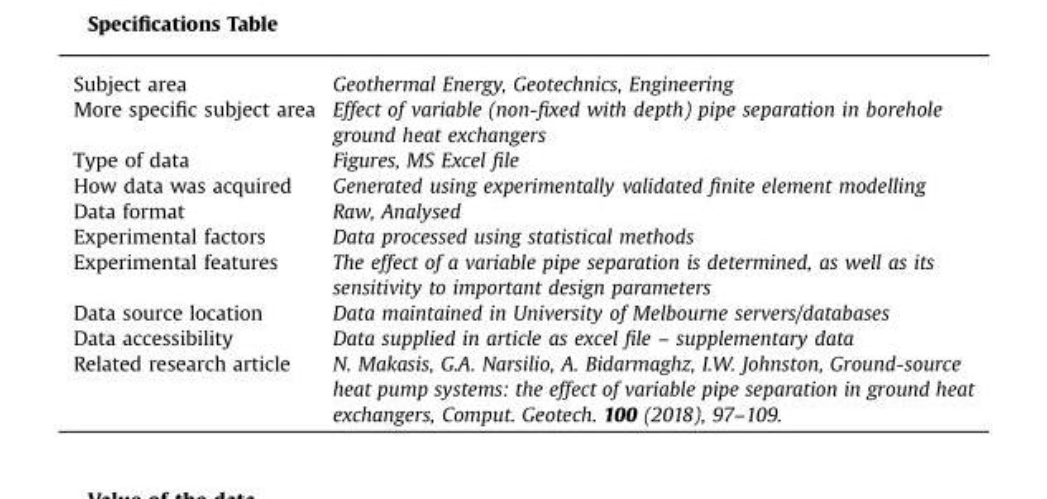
<table><thead><tr><td>Subject area</td><td>Geothermal Energy, Geotechnics, Engineering</td></tr></thead><tbody><tr><td>More specific subject area</td><td>Effect of variable (non-fixed with depth) pipe separation in borehole ground heat exchangers</td></tr><tr><td>Type of data</td><td>Figures, MS Excel file</td></tr><tr><td>How data was acquired</td><td>Generated using experimentally validated finite element modelling</td></tr><tr><td>Data format</td><td>Raw, Analysed</td></tr><tr><td>Experimental factors</td><td>Data processed using statistical methods</td></tr><tr><td>Experimental features</td><td>The effect of a variable pipe separation is determined, as well as its sensitivity to important design parameters</td></tr><tr><td>Data source location</td><td>Data maintained in University of Melbourne servers/databases</td></tr><tr><td>Data accessibility</td><td>Data supplied in article as excel file – supplementary data</td></tr><tr><td>Related research article</td><td>N. Makasis, G.A. Narsilio, A. Bidarmaghz, I.W. Johnston, Ground-source heat pump systems: the effect of variable pipe separation in ground heat exchangers, Comput. Geotech. 100 (2018), 97–109.</td></tr></tbody></table>